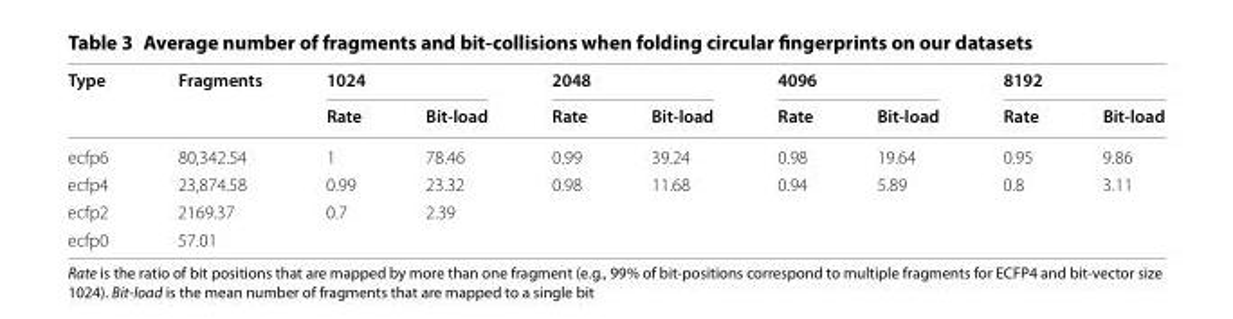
<table><thead><tr><td rowspan="2">Type</td><td rowspan="2">Fragments</td><td colspan="2">1024</td><td colspan="2">2048</td><td colspan="2">4096</td><td colspan="2">8192</td></tr><tr><td>Rate</td><td>Bit-load</td><td>Rate</td><td>Bit-load</td><td>Rate</td><td>Bit-load</td><td>Rate</td><td>Bit-load</td></tr></thead><tbody><tr><td>ecfp6</td><td>80,342.54</td><td>1</td><td>78.46</td><td>0.99</td><td>39.24</td><td>0.98</td><td>19.64</td><td>0.95</td><td>9.86</td></tr><tr><td>ecfp4</td><td>23,874.58</td><td>0.99</td><td>23.32</td><td>0.98</td><td>11.68</td><td>0.94</td><td>5.89</td><td>0.8</td><td>3.11</td></tr><tr><td>ecfp2</td><td>2169.37</td><td>0.7</td><td>2.39</td><td></td><td></td><td></td><td></td><td></td><td></td></tr><tr><td>ecfp0</td><td>57.01</td><td></td><td></td><td></td><td></td><td></td><td></td><td></td><td></td></tr></tbody></table>